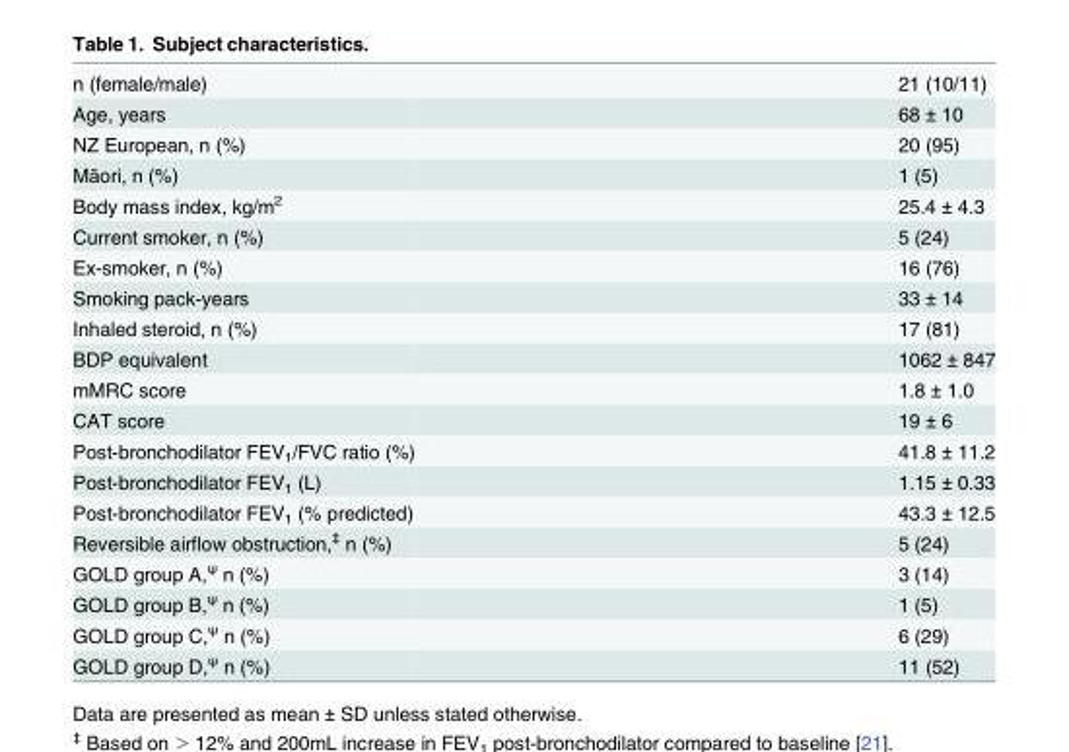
<table><tbody><tr><td>n (female/male)</td><td>21 (10/11)</td></tr><tr><td>Age, years</td><td>68 ± 10</td></tr><tr><td>NZ European, n (%)</td><td>20 (95)</td></tr><tr><td>Māori, n (%)</td><td>1 (5)</td></tr><tr><td>Body mass index, kg/m<sup>2</sup></td><td>25.4 ± 4.3</td></tr><tr><td>Current smoker, n (%)</td><td>5 (24)</td></tr><tr><td>Ex-smoker, n (%)</td><td>16 (76)</td></tr><tr><td>Smoking pack-years</td><td>33 ± 14</td></tr><tr><td>Inhaled steroid, n (%)</td><td>17 (81)</td></tr><tr><td>BDP equivalent</td><td>1062 ± 847</td></tr><tr><td>mMRC score</td><td>1.8 ± 1.0</td></tr><tr><td>CAT score</td><td>19 ± 6</td></tr><tr><td>Post-bronchodilator FEV<sub>1</sub>/FVC ratio (%)</td><td>41.8 ± 11.2</td></tr><tr><td>Post-bronchodilator FEV<sub>1</sub> (L)</td><td>1.15 ± 0.33</td></tr><tr><td>Post-bronchodilator FEV<sub>1</sub> (% predicted)</td><td>43.3 ± 12.5</td></tr><tr><td>Reversible airflow obstruction,<sup>‡</sup> n (%)</td><td>5 (24)</td></tr><tr><td>GOLD group A,<sup>ψ</sup> n (%)</td><td>3 (14)</td></tr><tr><td>GOLD group B,<sup>ψ</sup> n (%)</td><td>1 (5)</td></tr><tr><td>GOLD group C,<sup>ψ</sup> n (%)</td><td>6 (29)</td></tr><tr><td>GOLD group D,<sup>ψ</sup> n (%)</td><td>11 (52)</td></tr></tbody></table>